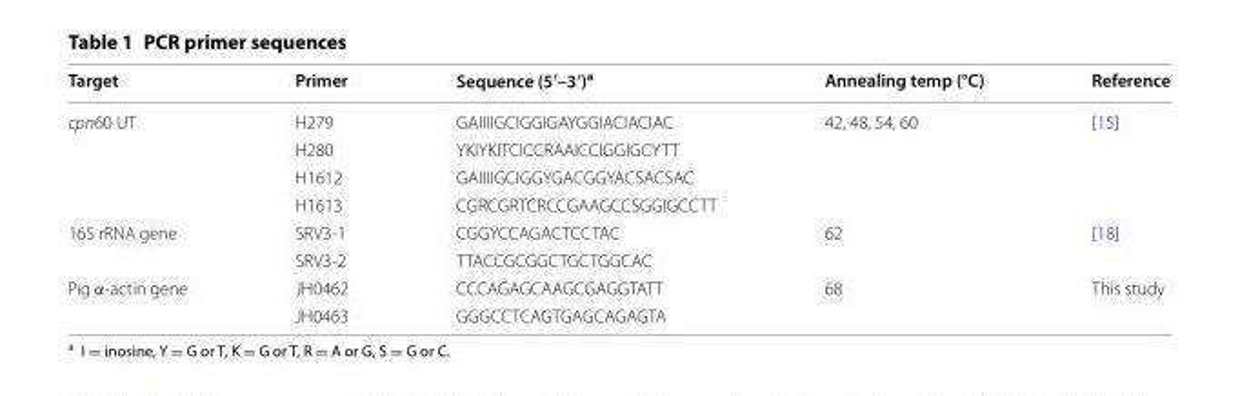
<table><thead><tr><td>Target</td><td>Primer</td><td>Sequence (5′–3′)<sup>a</sup></td><td>Annealing temp (°C)</td><td>Reference</td></tr></thead><tbody><tr><td rowspan="4">cpn60 UT</td><td>H279</td><td>GAIIIIGCIGGIGAYGGIACIACIAC</td><td rowspan="4">42, 48, 54, 60</td><td rowspan="4">[15]</td></tr><tr><td>H280</td><td>YKIYKITCICCRAAICCIGGIGCYTT</td></tr><tr><td>H1612</td><td>GAIIIIGCIGGYGACGGYACSACSAC</td></tr><tr><td>H1613</td><td>CGRCGRTCRCCGAAGCCSGGIGCCTT</td></tr><tr><td rowspan="2">16S rRNA gene</td><td>SRV3-1</td><td>CGGYCCAGACTCCTAC</td><td rowspan="2">62</td><td rowspan="2">[18]</td></tr><tr><td>SRV3-2</td><td>TTACCGCGGCTGCTGGCAC</td></tr><tr><td rowspan="2">Pig α-actin gene</td><td>JH0462</td><td>CCCAGAGCAAGCGAGGTATT</td><td rowspan="2">68</td><td rowspan="2">This study</td></tr><tr><td>JH0463</td><td>GGGCCTCAGTGAGCAGAGTA</td></tr></tbody></table>